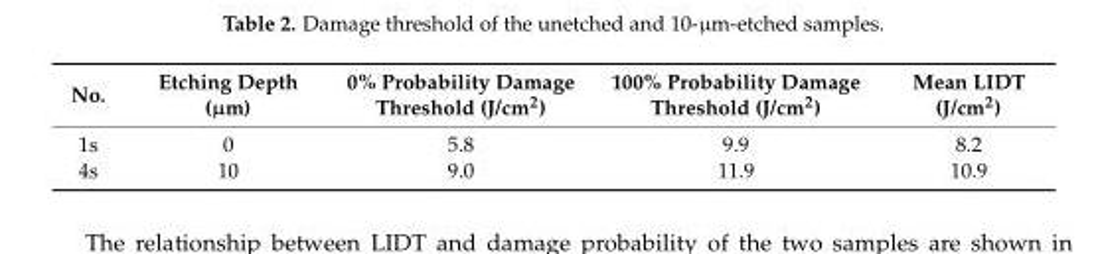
<table><thead><tr><td>No.</td><td>Etching Depth (µm)</td><td>0% Probability Damage Threshold (J/cm<sup>2</sup>)</td><td>100% Probability Damage Threshold (J/cm<sup>2</sup>)</td><td>Mean LIDT (J/cm<sup>2</sup>)</td></tr></thead><tbody><tr><td>1s</td><td>0</td><td>5.8</td><td>9.9</td><td>8.2</td></tr><tr><td>4s</td><td>10</td><td>9.0</td><td>11.9</td><td>10.9</td></tr></tbody></table>